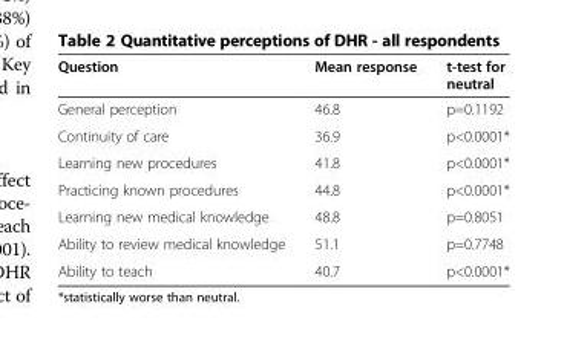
<table><thead><tr><td>Question</td><td>Mean response</td><td>t-test for neutral</td></tr></thead><tbody><tr><td>General perception</td><td>46.8</td><td>p=0.1192</td></tr><tr><td>Continuity of care</td><td>36.9</td><td>p&lt;0.0001*</td></tr><tr><td>Learning new procedures</td><td>41.8</td><td>p&lt;0.0001*</td></tr><tr><td>Practicing known procedures</td><td>44.8</td><td>p&lt;0.0001*</td></tr><tr><td>Learning new medical knowledge</td><td>48.8</td><td>p=0.8051</td></tr><tr><td>Ability to review medical knowledge</td><td>51.1</td><td>p=0.7748</td></tr><tr><td>Ability to teach</td><td>40.7</td><td>p&lt;0.0001*</td></tr></tbody></table>